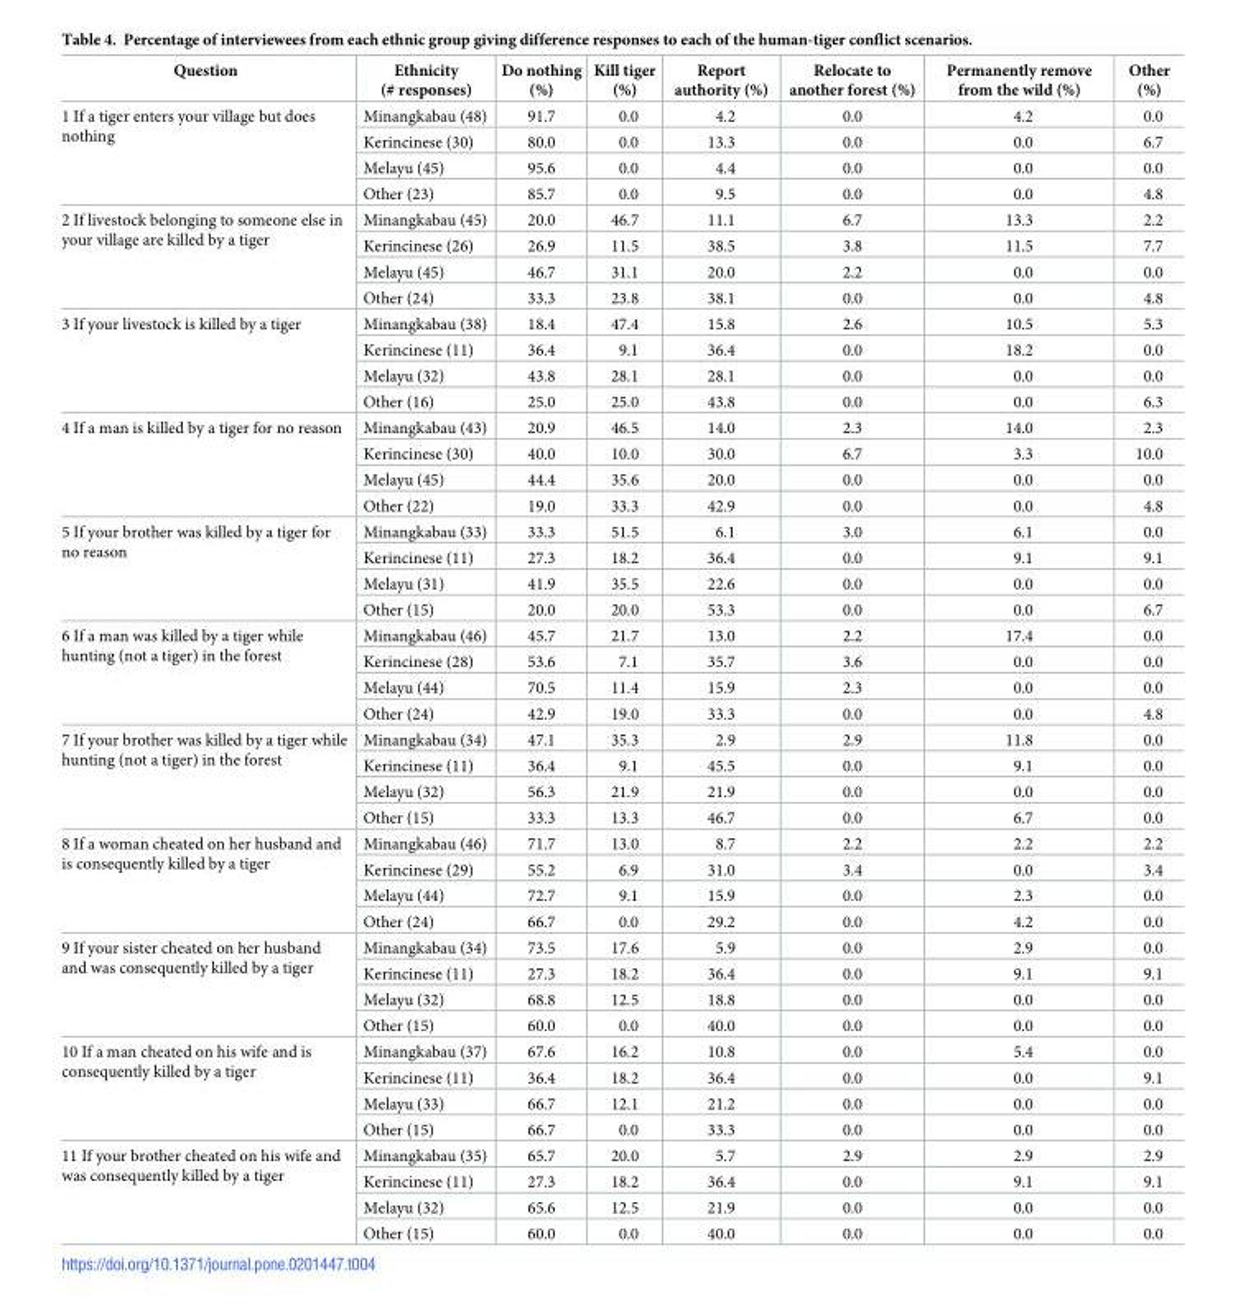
<table><thead><tr><td>Question</td><td>Ethnicity (# responses)</td><td>Do nothing (%)</td><td>Kill tiger (%)</td><td>Report authority (%)</td><td>Relocate to another forest (%)</td><td>Permanently remove from the wild (%)</td><td>Other (%)</td></tr></thead><tbody><tr><td rowspan="4">1 If a tiger enters your village but does nothing</td><td>Minangkabau (48)</td><td>91.7</td><td>0.0</td><td>4.2</td><td>0.0</td><td>4.2</td><td>0.0</td></tr><tr><td>Kerincinese (30)</td><td>80.0</td><td>0.0</td><td>13.3</td><td>0.0</td><td>0.0</td><td>6.7</td></tr><tr><td>Melayu (45)</td><td>95.6</td><td>0.0</td><td>4.4</td><td>0.0</td><td>0.0</td><td>0.0</td></tr><tr><td>Other (23)</td><td>85.7</td><td>0.0</td><td>9.5</td><td>0.0</td><td>0.0</td><td>4.8</td></tr><tr><td rowspan="4">2 If livestock belonging to someone else in your village are killed by a tiger</td><td>Minangkabau (45)</td><td>20.0</td><td>46.7</td><td>11.1</td><td>6.7</td><td>13.3</td><td>2.2</td></tr><tr><td>Kerincinese (26)</td><td>26.9</td><td>11.5</td><td>38.5</td><td>3.8</td><td>11.5</td><td>7.7</td></tr><tr><td>Melayu (45)</td><td>46.7</td><td>31.1</td><td>20.0</td><td>2.2</td><td>0.0</td><td>0.0</td></tr><tr><td>Other (24)</td><td>33.3</td><td>23.8</td><td>38.1</td><td>0.0</td><td>0.0</td><td>4.8</td></tr><tr><td rowspan="4">3 If your livestock is killed by a tiger</td><td>Minangkabau (38)</td><td>18.4</td><td>47.4</td><td>15.8</td><td>2.6</td><td>10.5</td><td>5.3</td></tr><tr><td>Kerincinese (11)</td><td>36.4</td><td>9.1</td><td>36.4</td><td>0.0</td><td>18.2</td><td>0.0</td></tr><tr><td>Melayu (32)</td><td>43.8</td><td>28.1</td><td>28.1</td><td>0.0</td><td>0.0</td><td>0.0</td></tr><tr><td>Other (16)</td><td>25.0</td><td>25.0</td><td>43.8</td><td>0.0</td><td>0.0</td><td>6.3</td></tr><tr><td rowspan="4">4 If a man is killed by a tiger for no reason</td><td>Minangkabau (43)</td><td>20.9</td><td>46.5</td><td>14.0</td><td>2.3</td><td>14.0</td><td>2.3</td></tr><tr><td>Kerincinese (30)</td><td>40.0</td><td>10.0</td><td>30.0</td><td>6.7</td><td>3.3</td><td>10.0</td></tr><tr><td>Melayu (45)</td><td>44.4</td><td>35.6</td><td>20.0</td><td>0.0</td><td>0.0</td><td>0.0</td></tr><tr><td>Other (22)</td><td>19.0</td><td>33.3</td><td>42.9</td><td>0.0</td><td>0.0</td><td>4.8</td></tr><tr><td rowspan="4">5 If your brother was killed by a tiger for no reason</td><td>Minangkabau (33)</td><td>33.3</td><td>51.5</td><td>6.1</td><td>3.0</td><td>6.1</td><td>0.0</td></tr><tr><td>Kerincinese (11)</td><td>27.3</td><td>18.2</td><td>36.4</td><td>0.0</td><td>9.1</td><td>9.1</td></tr><tr><td>Melayu (31)</td><td>41.9</td><td>35.5</td><td>22.6</td><td>0.0</td><td>0.0</td><td>0.0</td></tr><tr><td>Other (15)</td><td>20.0</td><td>20.0</td><td>53.3</td><td>0.0</td><td>0.0</td><td>6.7</td></tr><tr><td rowspan="4">6 If a man was killed by a tiger while hunting (not a tiger) in the forest</td><td>Minangkabau (46)</td><td>45.7</td><td>21.7</td><td>13.0</td><td>2.2</td><td>17.4</td><td>0.0</td></tr><tr><td>Kerincinese (28)</td><td>53.6</td><td>7.1</td><td>35.7</td><td>3.6</td><td>0.0</td><td>0.0</td></tr><tr><td>Melayu (44)</td><td>70.5</td><td>11.4</td><td>15.9</td><td>2.3</td><td>0.0</td><td>0.0</td></tr><tr><td>Other (24)</td><td>42.9</td><td>19.0</td><td>33.3</td><td>0.0</td><td>0.0</td><td>4.8</td></tr><tr><td rowspan="4">7 If your brother was killed by a tiger while hunting (not a tiger) in the forest</td><td>Minangkabau (34)</td><td>47.1</td><td>35.3</td><td>2.9</td><td>2.9</td><td>11.8</td><td>0.0</td></tr><tr><td>Kerincinese (11)</td><td>36.4</td><td>9.1</td><td>45.5</td><td>0.0</td><td>9.1</td><td>0.0</td></tr><tr><td>Melayu (32)</td><td>56.3</td><td>21.9</td><td>21.9</td><td>0.0</td><td>0.0</td><td>0.0</td></tr><tr><td>Other (15)</td><td>33.3</td><td>13.3</td><td>46.7</td><td>0.0</td><td>6.7</td><td>0.0</td></tr><tr><td rowspan="4">8 If a woman cheated on her husband and is consequently killed by a tiger</td><td>Minangkabau (46)</td><td>71.7</td><td>13.0</td><td>8.7</td><td>2.2</td><td>2.2</td><td>2.2</td></tr><tr><td>Kerincinese (29)</td><td>55.2</td><td>6.9</td><td>31.0</td><td>3.4</td><td>0.0</td><td>3.4</td></tr><tr><td>Melayu (44)</td><td>72.7</td><td>9.1</td><td>15.9</td><td>0.0</td><td>2.3</td><td>0.0</td></tr><tr><td>Other (24)</td><td>66.7</td><td>0.0</td><td>29.2</td><td>0.0</td><td>4.2</td><td>0.0</td></tr><tr><td rowspan="4">9 If your sister cheated on her husband and was consequently killed by a tiger</td><td>Minangkabau (34)</td><td>73.5</td><td>17.6</td><td>5.9</td><td>0.0</td><td>2.9</td><td>0.0</td></tr><tr><td>Kerincinese (11)</td><td>27.3</td><td>18.2</td><td>36.4</td><td>0.0</td><td>9.1</td><td>9.1</td></tr><tr><td>Melayu (32)</td><td>68.8</td><td>12.5</td><td>18.8</td><td>0.0</td><td>0.0</td><td>0.0</td></tr><tr><td>Other (15)</td><td>60.0</td><td>0.0</td><td>40.0</td><td>0.0</td><td>0.0</td><td>0.0</td></tr><tr><td rowspan="4">10 If a man cheated on his wife and is consequently killed by a tiger</td><td>Minangkabau (37)</td><td>67.6</td><td>16.2</td><td>10.8</td><td>0.0</td><td>5.4</td><td>0.0</td></tr><tr><td>Kerincinese (11)</td><td>36.4</td><td>18.2</td><td>36.4</td><td>0.0</td><td>0.0</td><td>9.1</td></tr><tr><td>Melayu (33)</td><td>66.7</td><td>12.1</td><td>21.2</td><td>0.0</td><td>0.0</td><td>0.0</td></tr><tr><td>Other (15)</td><td>66.7</td><td>0.0</td><td>33.3</td><td>0.0</td><td>0.0</td><td>0.0</td></tr><tr><td rowspan="4">11 If your brother cheated on his wife and was consequently killed by a tiger</td><td>Minangkabau (35)</td><td>65.7</td><td>20.0</td><td>5.7</td><td>2.9</td><td>2.9</td><td>2.9</td></tr><tr><td>Kerincinese (11)</td><td>27.3</td><td>18.2</td><td>36.4</td><td>0.0</td><td>9.1</td><td>9.1</td></tr><tr><td>Melayu (32)</td><td>65.6</td><td>12.5</td><td>21.9</td><td>0.0</td><td>0.0</td><td>0.0</td></tr><tr><td>Other (15)</td><td>60.0</td><td>0.0</td><td>40.0</td><td>0.0</td><td>0.0</td><td>0.0</td></tr></tbody></table>